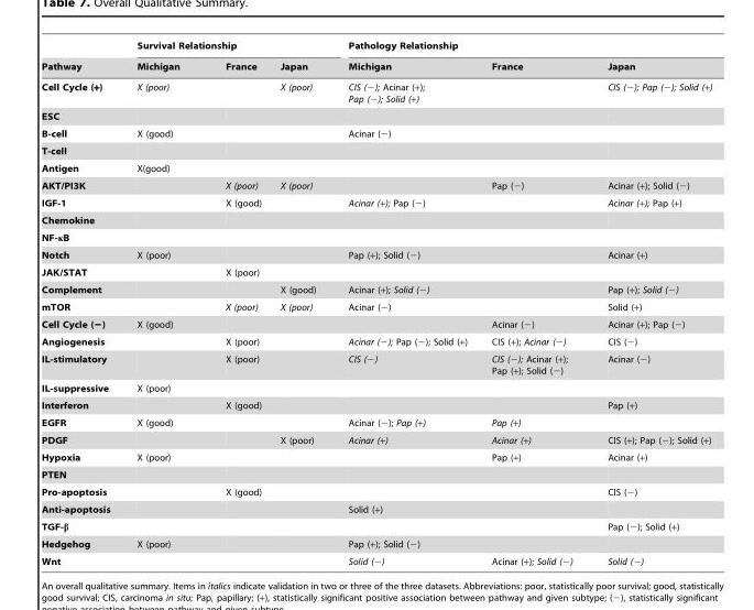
<table><thead><tr><td rowspan="2">Pathway</td><td colspan="3">Survival Relationship</td><td colspan="3">Pathology Relationship</td></tr><tr><td>Michigan</td><td>France</td><td>Japan</td><td>Michigan</td><td>France</td><td>Japan</td></tr></thead><tbody><tr><td>Cell Cycle (+)</td><td>X (poor)</td><td></td><td>X (poor)</td><td>CIS (−); Acinar (+); Pap (−); Solid (+)</td><td></td><td>CIS (−); Pap (−); Solid (+)</td></tr><tr><td colspan="7">ESC</td></tr><tr><td>B-cell</td><td>X (good)</td><td></td><td></td><td>Acinar (−)</td><td></td><td></td></tr><tr><td colspan="7">T-cell</td></tr><tr><td>Antigen</td><td>X(good)</td><td></td><td></td><td></td><td></td><td></td></tr><tr><td>AKT/PI3K</td><td></td><td>X (poor)</td><td>X (poor)</td><td></td><td>Pap (−)</td><td>Acinar (+); Solid (−)</td></tr><tr><td>IGF-1</td><td></td><td>X (good)</td><td></td><td>Acinar (+); Pap (−)</td><td></td><td>Acinar (+); Pap (+)</td></tr><tr><td colspan="7">Chemokine</td></tr><tr><td colspan="7">NF-κB</td></tr><tr><td>Notch</td><td>X (poor)</td><td></td><td></td><td>Pap (+); Solid (−)</td><td></td><td>Acinar (+)</td></tr><tr><td>JAK/STAT</td><td></td><td>X (poor)</td><td></td><td></td><td></td><td></td></tr><tr><td>Complement</td><td></td><td></td><td>X (good)</td><td>Acinar (+); Solid (−)</td><td></td><td>Pap (+); Solid (−)</td></tr><tr><td>mTOR</td><td></td><td>X (poor)</td><td>X (poor)</td><td>Acinar (−)</td><td></td><td>Solid (+)</td></tr><tr><td>Cell Cycle (−)</td><td>X (good)</td><td></td><td></td><td></td><td>Acinar (−)</td><td>Acinar (+); Pap (−)</td></tr><tr><td>Angiogenesis</td><td></td><td>X (poor)</td><td></td><td>Acinar (−); Pap (−); Solid (+)</td><td>CIS (+); Acinar (−)</td><td>CIS (−)</td></tr><tr><td>IL-stimulatory</td><td></td><td>X (poor)</td><td></td><td>CIS (−)</td><td>CIS (−); Acinar (+); Pap (+); Solid (−)</td><td>Acinar (−)</td></tr><tr><td>IL-suppressive</td><td>X (poor)</td><td></td><td></td><td></td><td></td><td></td></tr><tr><td>Interferon</td><td></td><td>X (good)</td><td></td><td></td><td></td><td>Pap (+)</td></tr><tr><td>EGFR</td><td>X (good)</td><td></td><td></td><td>Acinar (−); Pap (+)</td><td>Pap (+)</td><td></td></tr><tr><td>PDGF</td><td></td><td></td><td>X (poor)</td><td>Acinar (+)</td><td>Acinar (+)</td><td>CIS (+); Pap (−); Solid (+)</td></tr><tr><td>Hypoxia</td><td>X (poor)</td><td></td><td></td><td></td><td>Pap (+)</td><td>Acinar (+)</td></tr><tr><td colspan="7">PTEN</td></tr><tr><td>Pro-apoptosis</td><td></td><td>X (good)</td><td></td><td></td><td></td><td>CIS (−)</td></tr><tr><td>Anti-apoptosis</td><td></td><td></td><td></td><td>Solid (+)</td><td></td><td></td></tr><tr><td>TGF-β</td><td></td><td></td><td></td><td></td><td></td><td>Pap (−); Solid (+)</td></tr><tr><td>Hedgehog</td><td>X (poor)</td><td></td><td></td><td>Pap (+); Solid (−)</td><td></td><td></td></tr><tr><td>Wnt</td><td></td><td></td><td></td><td>Solid (−)</td><td>Acinar (+); Solid (−)</td><td>Solid (−)</td></tr></tbody></table>